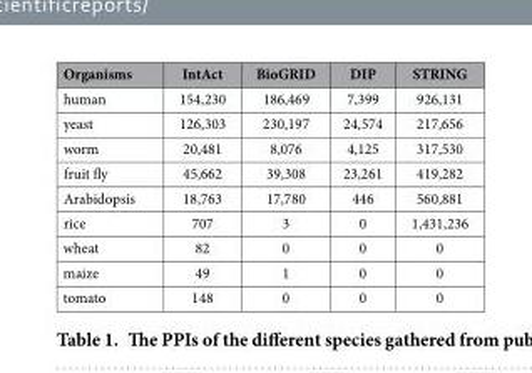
<table><thead><tr><td>Organisms</td><td>IntAct</td><td>BioGRID</td><td>DIP</td><td>STRING</td></tr></thead><tbody><tr><td>human</td><td>154,230</td><td>186,469</td><td>7,399</td><td>926,131</td></tr><tr><td>yeast</td><td>126,303</td><td>230,197</td><td>24,574</td><td>217,656</td></tr><tr><td>worm</td><td>20,481</td><td>8,076</td><td>4,125</td><td>317,530</td></tr><tr><td>fruit fly</td><td>45,662</td><td>39,308</td><td>23,261</td><td>419,282</td></tr><tr><td>Arabidopsis</td><td>18,763</td><td>17,780</td><td>446</td><td>560,881</td></tr><tr><td>rice</td><td>707</td><td>3</td><td>0</td><td>1,431,236</td></tr><tr><td>wheat</td><td>82</td><td>0</td><td>0</td><td>0</td></tr><tr><td>maize</td><td>49</td><td>1</td><td>0</td><td>0</td></tr><tr><td>tomato</td><td>148</td><td>0</td><td>0</td><td>0</td></tr></tbody></table>